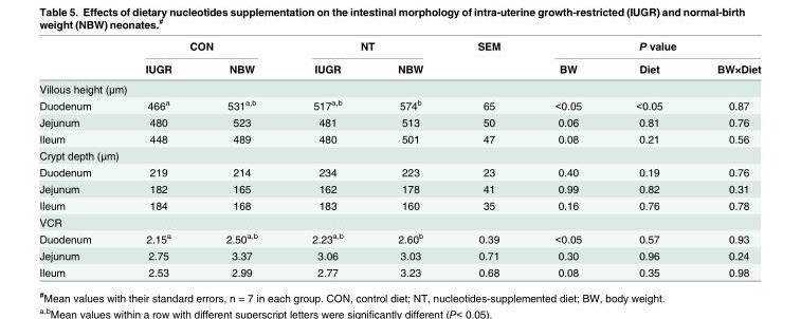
<table><thead><tr><td rowspan="2"></td><td colspan="2">CON</td><td colspan="2">NT</td><td rowspan="2">SEM</td><td colspan="3">P value</td></tr><tr><td>IUGR</td><td>NBW</td><td>IUGR</td><td>NBW</td><td>BW</td><td>Diet</td><td>BW×Diet</td></tr></thead><tbody><tr><td colspan="9">Villous height (μm)</td></tr><tr><td>Duodenum</td><td>466<sup>a</sup></td><td>531<sup>a,b</sup></td><td>517<sup>a,b</sup></td><td>574<sup>b</sup></td><td>65</td><td>&lt;0.05</td><td>&lt;0.05</td><td>0.87</td></tr><tr><td>Jejunum</td><td>480</td><td>523</td><td>481</td><td>513</td><td>50</td><td>0.06</td><td>0.81</td><td>0.76</td></tr><tr><td>Ileum</td><td>448</td><td>489</td><td>480</td><td>501</td><td>47</td><td>0.08</td><td>0.21</td><td>0.56</td></tr><tr><td colspan="9">Crypt depth (μm)</td></tr><tr><td>Duodenum</td><td>219</td><td>214</td><td>234</td><td>223</td><td>23</td><td>0.40</td><td>0.19</td><td>0.76</td></tr><tr><td>Jejunum</td><td>182</td><td>165</td><td>162</td><td>178</td><td>41</td><td>0.99</td><td>0.82</td><td>0.31</td></tr><tr><td>Ileum</td><td>184</td><td>168</td><td>183</td><td>160</td><td>35</td><td>0.16</td><td>0.76</td><td>0.78</td></tr><tr><td colspan="9">VCR</td></tr><tr><td>Duodenum</td><td>2.15<sup>a</sup></td><td>2.50<sup>a,b</sup></td><td>2.23<sup>a,b</sup></td><td>2.60<sup>b</sup></td><td>0.39</td><td>&lt;0.05</td><td>0.57</td><td>0.93</td></tr><tr><td>Jejunum</td><td>2.75</td><td>3.37</td><td>3.06</td><td>3.03</td><td>0.71</td><td>0.30</td><td>0.96</td><td>0.24</td></tr><tr><td>Ileum</td><td>2.53</td><td>2.99</td><td>2.77</td><td>3.23</td><td>0.68</td><td>0.08</td><td>0.35</td><td>0.98</td></tr></tbody></table>